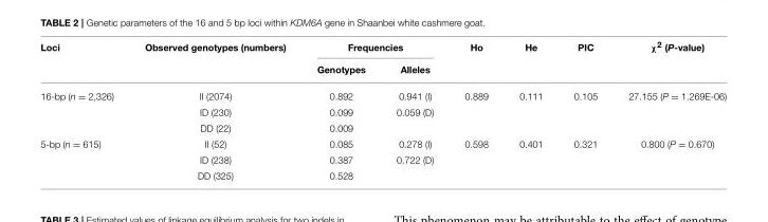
<table><thead><tr><td rowspan="2">Loci</td><td rowspan="2">Observed genotypes (numbers)</td><td colspan="2">Frequencies</td><td rowspan="2">Ho</td><td rowspan="2">He</td><td rowspan="2">PIC</td><td rowspan="2">χ<sup>2</sup> (P-value)</td></tr><tr><td>Genotypes</td><td>Alleles</td></tr></thead><tbody><tr><td rowspan="3">16-bp (n = 2,326)</td><td>II (2074)</td><td>0.892</td><td>0.941 (I)</td><td>0.889</td><td>0.111</td><td>0.105</td><td>27.155 (P = 1.269E-06)</td></tr><tr><td>ID (230)</td><td>0.099</td><td>0.059 (D)</td><td></td><td></td><td></td><td></td></tr><tr><td>DD (22)</td><td>0.009</td><td></td><td></td><td></td><td></td><td></td></tr><tr><td rowspan="3">5-bp (n = 615)</td><td>II (52)</td><td>0.085</td><td>0.278 (I)</td><td>0.598</td><td>0.401</td><td>0.321</td><td>0.800 (P = 0.670)</td></tr><tr><td>ID (238)</td><td>0.387</td><td>0.722 (D)</td><td></td><td></td><td></td><td></td></tr><tr><td>DD (325)</td><td>0.528</td><td></td><td></td><td></td><td></td><td></td></tr></tbody></table>